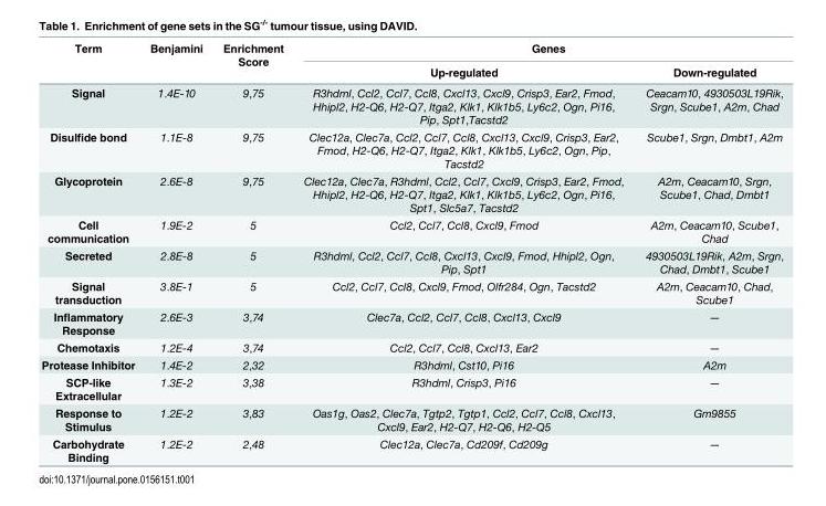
<table><thead><tr><td rowspan="2">Term</td><td rowspan="2">Benjamini</td><td rowspan="2">Enrichment Score</td><td colspan="2">Genes</td></tr><tr><td>Up-regulated</td><td>Down-regulated</td></tr></thead><tbody><tr><td>Signal</td><td>1.4E-10</td><td>9,75</td><td>R3hdml, Ccl2, Ccl7, Ccl8, Cxcl13, Cxcl9, Crisp3, Ear2, Fmod, Hhipl2, H2-Q6, H2-Q7, Itga2, Klk1, Klk1b5, Ly6c2, Ogn, Pi16, Pip, Spt1,Tacstd2</td><td>Ceacam10, 4930503L19Rik, Srgn, Scube1, A2m, Chad</td></tr><tr><td>Disulfide bond</td><td>1.1E-8</td><td>9,75</td><td>Clec12a, Clec7a, Ccl2, Ccl7, Ccl8, Cxcl13, Cxcl9, Crisp3, Ear2, Fmod, H2-Q6, H2-Q7, Itga2, Klk1, Klk1b5, Ly6c2, Ogn, Pip, Tacstd2</td><td>Scube1, Srgn, Dmbt1, A2m</td></tr><tr><td>Glycoprotein</td><td>2.6E-8</td><td>9,75</td><td>Clec12a, Clec7a, R3hdml, Ccl2, Ccl7, Cxcl9, Crisp3, Ear2, Fmod, Hhipl2, H2-Q6, H2-Q7, Itga2, Klk1, Klk1b5, Ly6c2, Ogn, Pi16, Spt1, Slc5a7, Tacstd2</td><td>A2m, Ceacam10, Srgn, Scube1, Chad, Dmbt1</td></tr><tr><td>Cell communication</td><td>1.9E-2</td><td>5</td><td>Ccl2, Ccl7, Ccl8, Cxcl9, Fmod</td><td>A2m, Ceacam10, Scube1, Chad</td></tr><tr><td>Secreted</td><td>2.8E-8</td><td>5</td><td>R3hdml, Ccl2, Ccl7, Ccl8, Cxcl13, Cxcl9, Fmod, Hhipl2, Ogn, Pip, Spt1</td><td>4930503L19Rik, A2m, Srgn, Chad, Dmbt1, Scube1</td></tr><tr><td>Signal transduction</td><td>3.8E-1</td><td>5</td><td>Ccl2, Ccl7, Ccl8, Cxcl9, Fmod, Olfr284, Ogn, Tacstd2</td><td>A2m, Ceacam10, Chad, Scube1</td></tr><tr><td>Inflammatory Response</td><td>2.6E-3</td><td>3,74</td><td>Clec7a, Ccl2, Ccl7, Ccl8, Cxcl13, Cxcl9</td><td>—</td></tr><tr><td>Chemotaxis</td><td>1.2E-4</td><td>3,74</td><td>Ccl2, Ccl7, Ccl8, Cxcl13, Ear2</td><td>—</td></tr><tr><td>Protease Inhibitor</td><td>1.4E-2</td><td>2,32</td><td>R3hdml, Cst10, Pi16</td><td>A2m</td></tr><tr><td>SCP-like Extracellular</td><td>1.3E-2</td><td>3,38</td><td>R3hdml, Crisp3, Pi16</td><td>—</td></tr><tr><td>Response to Stimulus</td><td>1.2E-2</td><td>3,83</td><td>Oas1g, Oas2, Clec7a, Tgtp2, Tgtp1, Ccl2, Ccl7, Ccl8, Cxcl13, Cxcl9, Ear2, H2-Q7, H2-Q6, H2-Q5</td><td>Gm9855</td></tr><tr><td>Carbohydrate Binding</td><td>1.2E-2</td><td>2,48</td><td>Clec12a, Clec7a, Cd209f, Cd209g</td><td>—</td></tr></tbody></table>